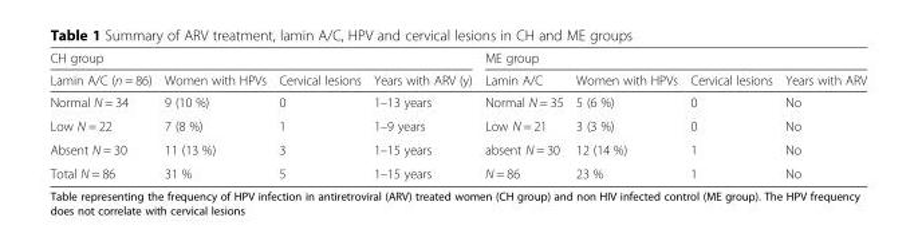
<table><thead><tr><td colspan="4">CH group</td><td colspan="4">ME group</td></tr><tr><td>Lamin A/C (n = 86)</td><td>Women with HPVs</td><td>Cervical lesions</td><td>Years with ARV (y)</td><td>Lamin A/C</td><td>Women with HPVs</td><td>Cervical lesions</td><td>Years with ARV</td></tr></thead><tbody><tr><td>Normal N = 34</td><td>9 (10 %)</td><td>0</td><td>1–13 years</td><td>Normal N = 35</td><td>5 (6 %)</td><td>0</td><td>No</td></tr><tr><td>Low N = 22</td><td>7 (8 %)</td><td>1</td><td>1–9 years</td><td>Low N = 21</td><td>3 (3 %)</td><td>0</td><td>No</td></tr><tr><td>Absent N = 30</td><td>11 (13 %)</td><td>3</td><td>1–15 years</td><td>absent N = 30</td><td>12 (14 %)</td><td>1</td><td>No</td></tr><tr><td>Total N = 86</td><td>31 %</td><td>5</td><td>1–15 years</td><td>N = 86</td><td>23 %</td><td>1</td><td>No</td></tr></tbody></table>